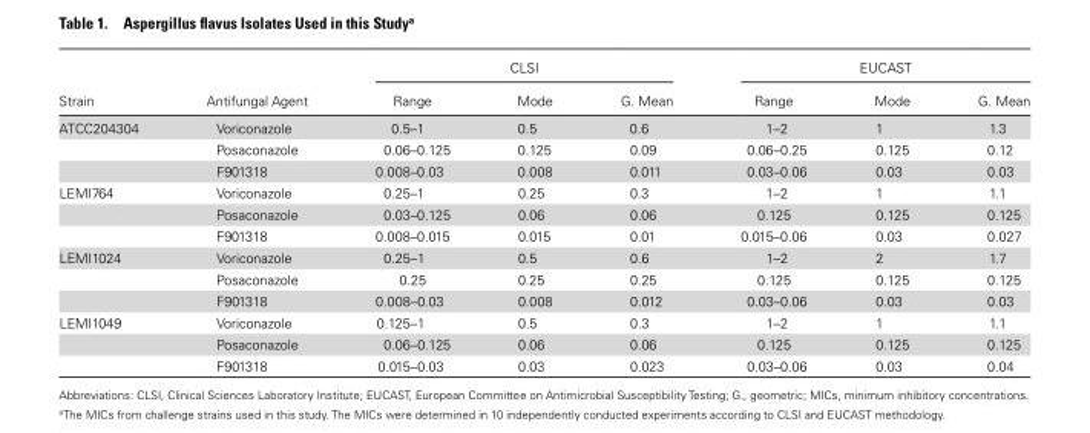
<table><thead><tr><td rowspan="2">Strain</td><td rowspan="2">Antifungal Agent</td><td colspan="3">CLSI</td><td colspan="3">EUCAST</td></tr><tr><td>Range</td><td>Mode</td><td>G. Mean</td><td>Range</td><td>Mode</td><td>G. Mean</td></tr></thead><tbody><tr><td rowspan="3">ATCC204304</td><td>Voriconazole</td><td>0.5–1</td><td>0.5</td><td>0.6</td><td>1–2</td><td>1</td><td>1.3</td></tr><tr><td>Posaconazole</td><td>0.06–0.125</td><td>0.125</td><td>0.09</td><td>0.06–0.25</td><td>0.125</td><td>0.12</td></tr><tr><td>F901318</td><td>0.008–0.03</td><td>0.008</td><td>0.011</td><td>0.03–0.06</td><td>0.03</td><td>0.03</td></tr><tr><td rowspan="3">LEMI764</td><td>Voriconazole</td><td>0.25–1</td><td>0.25</td><td>0.3</td><td>1–2</td><td>1</td><td>1.1</td></tr><tr><td>Posaconazole</td><td>0.03–0.125</td><td>0.06</td><td>0.06</td><td>0.125</td><td>0.125</td><td>0.125</td></tr><tr><td>F901318</td><td>0.008–0.015</td><td>0.015</td><td>0.01</td><td>0.015–0.06</td><td>0.03</td><td>0.027</td></tr><tr><td rowspan="3">LEMI1024</td><td>Voriconazole</td><td>0.25–1</td><td>0.5</td><td>0.6</td><td>1–2</td><td>2</td><td>1.7</td></tr><tr><td>Posaconazole</td><td>0.25</td><td>0.25</td><td>0.25</td><td>0.125</td><td>0.125</td><td>0.125</td></tr><tr><td>F901318</td><td>0.008–0.03</td><td>0.008</td><td>0.012</td><td>0.03–0.06</td><td>0.03</td><td>0.03</td></tr><tr><td rowspan="3">LEMI1049</td><td>Voriconazole</td><td>0.125–1</td><td>0.5</td><td>0.3</td><td>1–2</td><td>1</td><td>1.1</td></tr><tr><td>Posaconazole</td><td>0.06–0.125</td><td>0.06</td><td>0.06</td><td>0.125</td><td>0.125</td><td>0.125</td></tr><tr><td>F901318</td><td>0.015–0.03</td><td>0.03</td><td>0.023</td><td>0.03–0.06</td><td>0.03</td><td>0.04</td></tr></tbody></table>